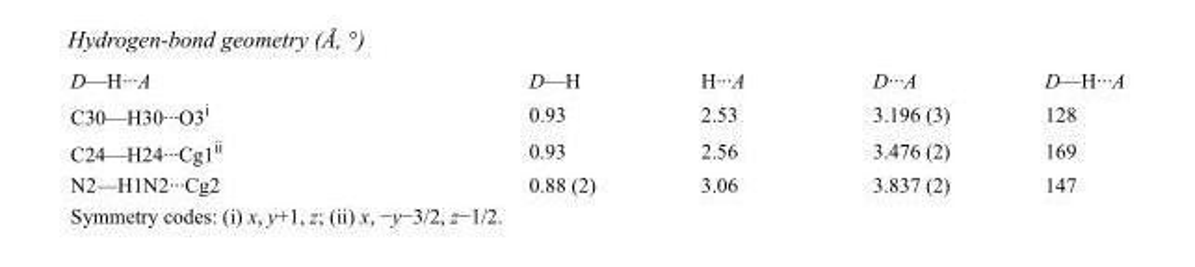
<table><tbody><tr><td>D—H···A</td><td>D—H</td><td>H···A</td><td>D···A</td><td>D—H···A</td></tr><tr><td>C30—H30···O3<sup>i</sup></td><td>0.93</td><td>2.53</td><td>3.196 (3)</td><td>128</td></tr><tr><td>C24—H24···Cg1<sup>ii</sup></td><td>0.93</td><td>2.56</td><td>3.476 (2)</td><td>169</td></tr><tr><td>N2—H1N2···Cg2</td><td>0.88 (2)</td><td>3.06</td><td>3.837 (2)</td><td>147</td></tr></tbody></table>